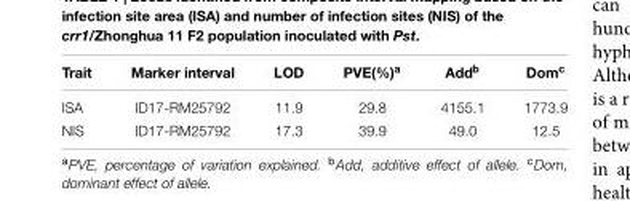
<table><thead><tr><td>Trait</td><td>Marker interval</td><td>LOD</td><td>PVE(%)<sup>a</sup></td><td>Add<sup>b</sup></td><td>Dom<sup>c</sup></td></tr></thead><tbody><tr><td>ISA</td><td>ID17-RM25792</td><td>11.9</td><td>29.8</td><td>4155.1</td><td>1773.9</td></tr><tr><td>NIS</td><td>ID17-RM25792</td><td>17.3</td><td>39.9</td><td>49.0</td><td>12.5</td></tr></tbody></table>